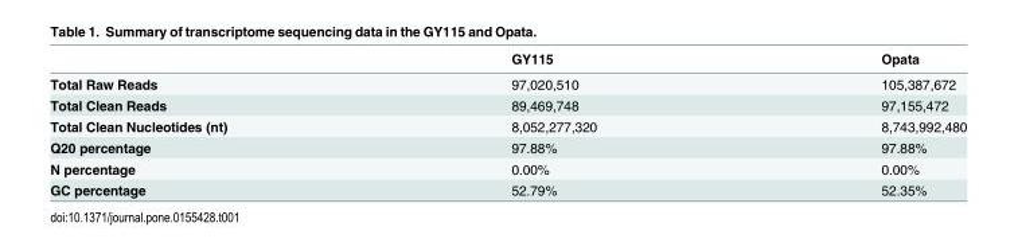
<table><thead><tr><td></td><td>GY115</td><td>Opata</td></tr></thead><tbody><tr><td>Total Raw Reads</td><td>97,020,510</td><td>105,387,672</td></tr><tr><td>Total Clean Reads</td><td>89,469,748</td><td>97,155,472</td></tr><tr><td>Total Clean Nucleotides (nt)</td><td>8,052,277,320</td><td>8,743,992,480</td></tr><tr><td>Q20 percentage</td><td>97.88%</td><td>97.88%</td></tr><tr><td>N percentage</td><td>0.00%</td><td>0.00%</td></tr><tr><td>GC percentage</td><td>52.79%</td><td>52.35%</td></tr></tbody></table>